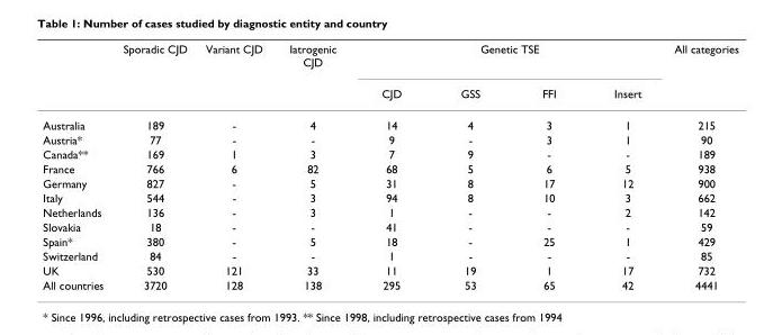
<table><thead><tr><td rowspan="2"></td><td rowspan="2">Sporadic CJD</td><td rowspan="2">Variant CJD</td><td rowspan="2">Iatrogenic CJD</td><td colspan="4">Genetic TSE</td><td rowspan="2">All categories</td></tr><tr><td>CJD</td><td>GSS</td><td>FFI</td><td>Insert</td></tr></thead><tbody><tr><td>Australia</td><td>189</td><td>-</td><td>4</td><td>14</td><td>4</td><td>3</td><td>1</td><td>215</td></tr><tr><td>Austria*</td><td>77</td><td>-</td><td>-</td><td>9</td><td>-</td><td>3</td><td>1</td><td>90</td></tr><tr><td>Canada**</td><td>169</td><td>1</td><td>3</td><td>7</td><td>9</td><td>-</td><td>-</td><td>189</td></tr><tr><td>France</td><td>766</td><td>6</td><td>82</td><td>68</td><td>5</td><td>6</td><td>5</td><td>938</td></tr><tr><td>Germany</td><td>827</td><td>-</td><td>5</td><td>31</td><td>8</td><td>17</td><td>12</td><td>900</td></tr><tr><td>Italy</td><td>544</td><td>-</td><td>3</td><td>94</td><td>8</td><td>10</td><td>3</td><td>662</td></tr><tr><td>Netherlands</td><td>136</td><td>-</td><td>3</td><td>1</td><td>-</td><td>-</td><td>2</td><td>142</td></tr><tr><td>Slovakia</td><td>18</td><td>-</td><td>-</td><td>41</td><td>-</td><td>-</td><td>-</td><td>59</td></tr><tr><td>Spain*</td><td>380</td><td>-</td><td>5</td><td>18</td><td>-</td><td>25</td><td>1</td><td>429</td></tr><tr><td>Switzerland</td><td>84</td><td>-</td><td>-</td><td>1</td><td>-</td><td>-</td><td>-</td><td>85</td></tr><tr><td>UK</td><td>530</td><td>121</td><td>33</td><td>11</td><td>19</td><td>1</td><td>17</td><td>732</td></tr><tr><td>All countries</td><td>3720</td><td>128</td><td>138</td><td>295</td><td>53</td><td>65</td><td>42</td><td>4441</td></tr></tbody></table>